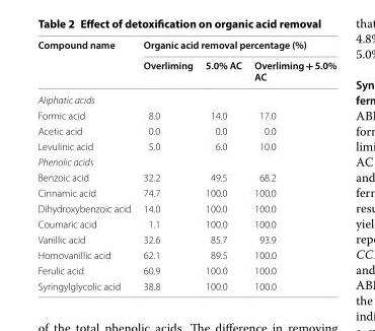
<table><thead><tr><td rowspan="2">Compound name</td><td colspan="3">Organic acid removal percentage (%)</td></tr><tr><td>Overliming</td><td>5.0% AC</td><td>Overliming + 5.0% AC</td></tr></thead><tbody><tr><td colspan="4">Aliphatic acids</td></tr><tr><td>Formic acid</td><td>8.0</td><td>14.0</td><td>17.0</td></tr><tr><td>Acetic acid</td><td>0.0</td><td>0.0</td><td>0.0</td></tr><tr><td>Levulinic acid</td><td>5.0</td><td>6.0</td><td>10.0</td></tr><tr><td colspan="4">Phenolic acids</td></tr><tr><td>Benzoic acid</td><td>32.2</td><td>49.5</td><td>68.2</td></tr><tr><td>Cinnamic acid</td><td>74.7</td><td>100.0</td><td>100.0</td></tr><tr><td>Dihydroxybenzoic acid</td><td>14.0</td><td>100.0</td><td>100.0</td></tr><tr><td>Coumaric acid</td><td>1.1</td><td>100.0</td><td>100.0</td></tr><tr><td>Vanillic acid</td><td>32.6</td><td>85.7</td><td>93.9</td></tr><tr><td>Homovanillic acid</td><td>62.1</td><td>89.5</td><td>100.0</td></tr><tr><td>Ferulic acid</td><td>60.9</td><td>100.0</td><td>100.0</td></tr><tr><td>Syringylglycolic acid</td><td>38.8</td><td>100.0</td><td>100.0</td></tr></tbody></table>